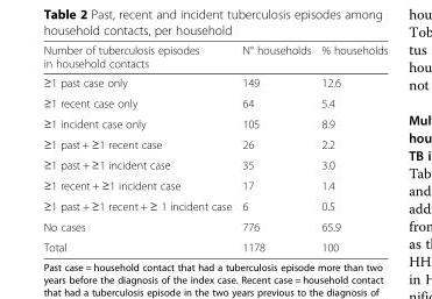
<table><thead><tr><td>Number of tuberculosis episodes in household contacts</td><td>N° households</td><td>% households</td></tr></thead><tbody><tr><td>≥1 past case only</td><td>149</td><td>12.6</td></tr><tr><td>≥1 recent case only</td><td>64</td><td>5.4</td></tr><tr><td>≥1 incident case only</td><td>105</td><td>8.9</td></tr><tr><td>≥1 past + ≥1 recent case</td><td>26</td><td>2.2</td></tr><tr><td>≥1 past + ≥1 incident case</td><td>35</td><td>3.0</td></tr><tr><td>≥1 recent + ≥1 incident case</td><td>17</td><td>1.4</td></tr><tr><td>≥1 past + ≥1 recent + ≥ 1 incident case</td><td>6</td><td>0.5</td></tr><tr><td>No cases</td><td>776</td><td>65.9</td></tr><tr><td>Total</td><td>1178</td><td>100</td></tr></tbody></table>